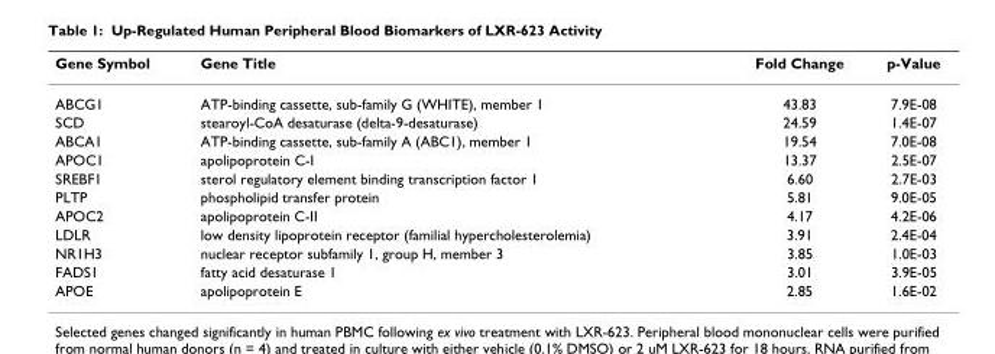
<table><thead><tr><td>Gene Symbol</td><td>Gene Title</td><td>Fold Change</td><td>p-Value</td></tr></thead><tbody><tr><td>ABCG1</td><td>ATP-binding cassette, sub-family G (WHITE), member 1</td><td>43.83</td><td>7.9E-08</td></tr><tr><td>SCD</td><td>stearoyl-CoA desaturase (delta-9-desaturase)</td><td>24.59</td><td>1.4E-07</td></tr><tr><td>ABCA1</td><td>ATP-binding cassette, sub-family A (ABC1), member 1</td><td>19.54</td><td>7.0E-08</td></tr><tr><td>APOC1</td><td>apolipoprotein C-I</td><td>13.37</td><td>2.5E-07</td></tr><tr><td>SREBF1</td><td>sterol regulatory element binding transcription factor 1</td><td>6.60</td><td>2.7E-03</td></tr><tr><td>PLTP</td><td>phospholipid transfer protein</td><td>5.81</td><td>9.0E-05</td></tr><tr><td>APOC2</td><td>apolipoprotein C-II</td><td>4.17</td><td>4.2E-06</td></tr><tr><td>LDLR</td><td>low density lipoprotein receptor (familial hypercholesterolemia)</td><td>3.91</td><td>2.4E-04</td></tr><tr><td>NR1H3</td><td>nuclear receptor subfamily 1, group H, member 3</td><td>3.85</td><td>1.0E-03</td></tr><tr><td>FADS1</td><td>fatty acid desaturase 1</td><td>3.01</td><td>3.9E-05</td></tr><tr><td>APOE</td><td>apolipoprotein E</td><td>2.85</td><td>1.6E-02</td></tr></tbody></table>